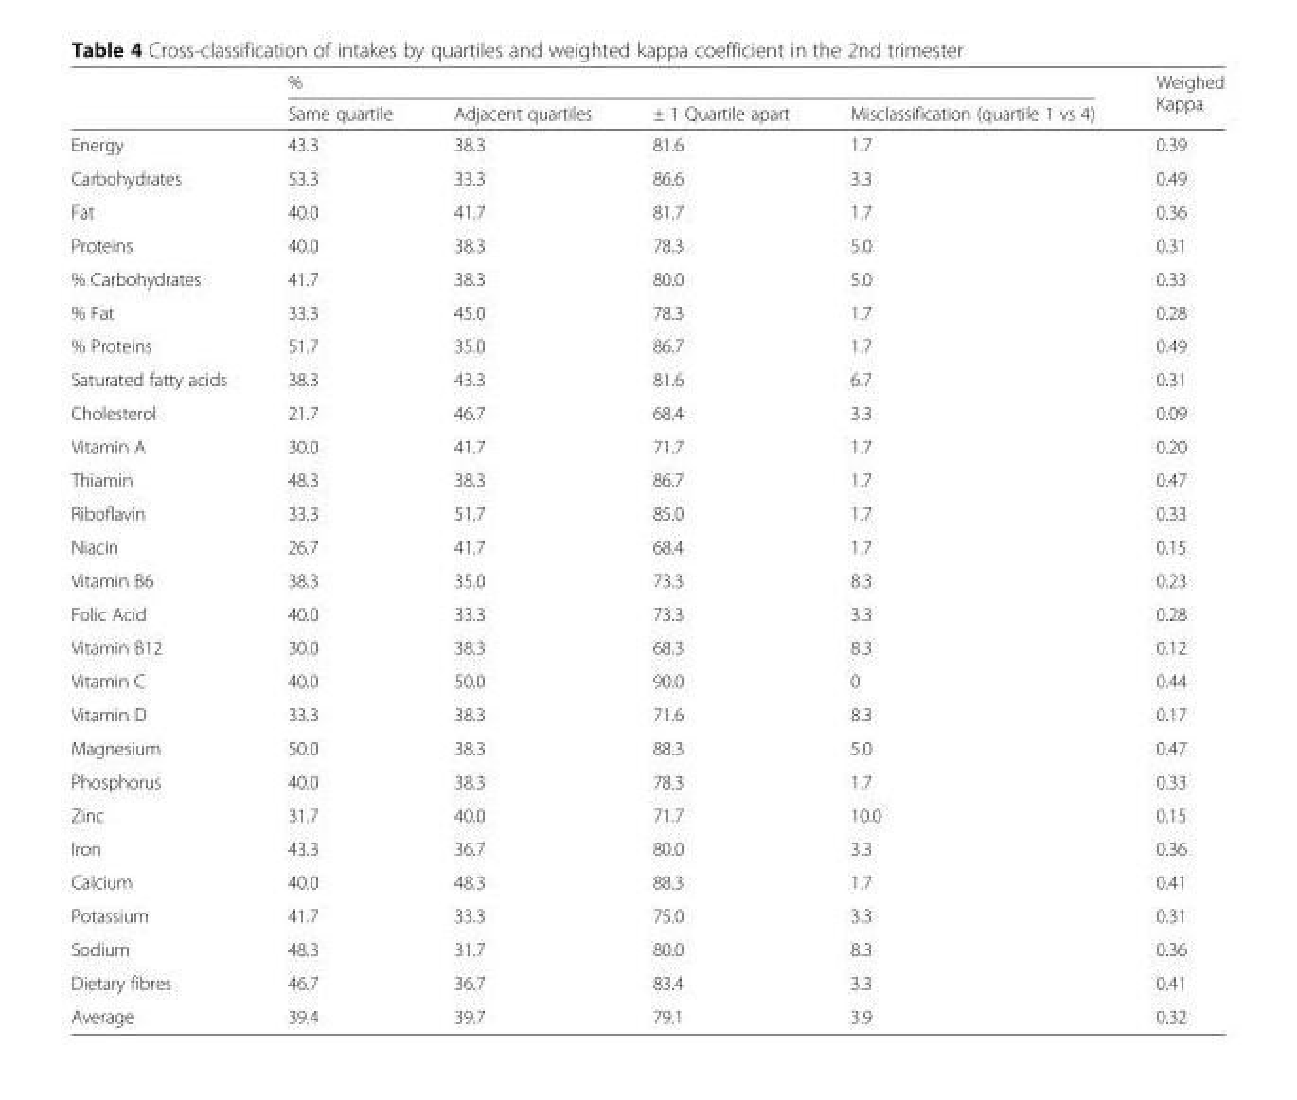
<table><thead><tr><td rowspan="2"></td><td colspan="4">%</td><td rowspan="2">Weighed Kappa</td></tr><tr><td>Same quartile</td><td>Adjacent quartiles</td><td>± 1 Quartile apart</td><td>Misclassification (quartile 1 vs 4)</td></tr></thead><tbody><tr><td>Energy</td><td>43.3</td><td>38.3</td><td>81.6</td><td>1.7</td><td>0.39</td></tr><tr><td>Carbohydrates</td><td>53.3</td><td>33.3</td><td>86.6</td><td>3.3</td><td>0.49</td></tr><tr><td>Fat</td><td>40.0</td><td>41.7</td><td>81.7</td><td>1.7</td><td>0.36</td></tr><tr><td>Proteins</td><td>40.0</td><td>38.3</td><td>78.3</td><td>5.0</td><td>0.31</td></tr><tr><td>% Carbohydrates</td><td>41.7</td><td>38.3</td><td>80.0</td><td>5.0</td><td>0.33</td></tr><tr><td>% Fat</td><td>33.3</td><td>45.0</td><td>78.3</td><td>1.7</td><td>0.28</td></tr><tr><td>% Proteins</td><td>51.7</td><td>35.0</td><td>86.7</td><td>1.7</td><td>0.49</td></tr><tr><td>Saturated fatty acids</td><td>38.3</td><td>43.3</td><td>81.6</td><td>6.7</td><td>0.31</td></tr><tr><td>Cholesterol</td><td>21.7</td><td>46.7</td><td>68.4</td><td>3.3</td><td>0.09</td></tr><tr><td>Vitamin A</td><td>30.0</td><td>41.7</td><td>71.7</td><td>1.7</td><td>0.20</td></tr><tr><td>Thiamin</td><td>48.3</td><td>38.3</td><td>86.7</td><td>1.7</td><td>0.47</td></tr><tr><td>Riboflavin</td><td>33.3</td><td>51.7</td><td>85.0</td><td>1.7</td><td>0.33</td></tr><tr><td>Niacin</td><td>26.7</td><td>41.7</td><td>68.4</td><td>1.7</td><td>0.15</td></tr><tr><td>Vitamin B6</td><td>38.3</td><td>35.0</td><td>73.3</td><td>8.3</td><td>0.23</td></tr><tr><td>Folic Acid</td><td>40.0</td><td>33.3</td><td>73.3</td><td>3.3</td><td>0.28</td></tr><tr><td>Vitamin B12</td><td>30.0</td><td>38.3</td><td>68.3</td><td>8.3</td><td>0.12</td></tr><tr><td>Vitamin C</td><td>40.0</td><td>50.0</td><td>90.0</td><td>0</td><td>0.44</td></tr><tr><td>Vitamin D</td><td>33.3</td><td>38.3</td><td>71.6</td><td>8.3</td><td>0.17</td></tr><tr><td>Magnesium</td><td>50.0</td><td>38.3</td><td>88.3</td><td>5.0</td><td>0.47</td></tr><tr><td>Phosphorus</td><td>40.0</td><td>38.3</td><td>78.3</td><td>1.7</td><td>0.33</td></tr><tr><td>Zinc</td><td>31.7</td><td>40.0</td><td>71.7</td><td>10.0</td><td>0.15</td></tr><tr><td>Iron</td><td>43.3</td><td>36.7</td><td>80.0</td><td>3.3</td><td>0.36</td></tr><tr><td>Calcium</td><td>40.0</td><td>48.3</td><td>88.3</td><td>1.7</td><td>0.41</td></tr><tr><td>Potassium</td><td>41.7</td><td>33.3</td><td>75.0</td><td>3.3</td><td>0.31</td></tr><tr><td>Sodium</td><td>48.3</td><td>31.7</td><td>80.0</td><td>8.3</td><td>0.36</td></tr><tr><td>Dietary fibres</td><td>46.7</td><td>36.7</td><td>83.4</td><td>3.3</td><td>0.41</td></tr><tr><td>Average</td><td>39.4</td><td>39.7</td><td>79.1</td><td>3.9</td><td>0.32</td></tr></tbody></table>